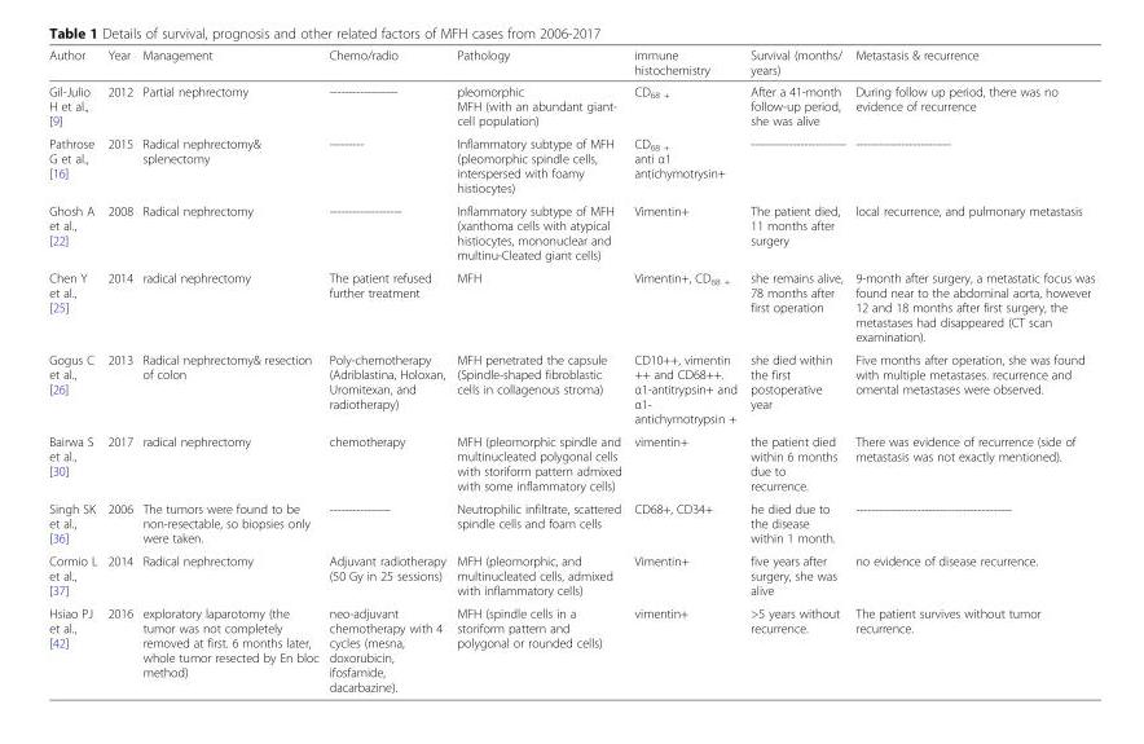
<table><thead><tr><td>Author</td><td>Year</td><td>Management</td><td>Chemo/radio</td><td>Pathology</td><td>immune histochemistry</td><td>Survival (months/ years)</td><td>Metastasis &amp; recurrence</td></tr></thead><tbody><tr><td>Gil-Julio H et al., [9]</td><td>2012</td><td>Partial nephrectomy</td><td>------------------</td><td>pleomorphic MFH (with an abundant giant- cell population)</td><td>CD<sub>68 +</sub></td><td>After a 41-month follow-up period, she was alive</td><td>During follow up period, there was no evidence of recurrence</td></tr><tr><td>Pathrose G et al., [16]</td><td>2015</td><td>Radical nephrectomy&amp; splenectomy</td><td>---------</td><td>Inflammatory subtype of MFH (pleomorphic spindle cells, interspersed with foamy histiocytes)</td><td>CD<sub>68 +</sub> anti α1 antichymotrysin+</td><td>-------------------------</td><td>-------------------------</td></tr><tr><td>Ghosh A et al., [22]</td><td>2008</td><td>Radical nephrectomy</td><td>-------------------</td><td>Inflammatory subtype of MFH (xanthoma cells with atypical histiocytes, mononuclear and multinu-Cleated giant cells)</td><td>Vimentin+</td><td>The patient died, 11 months after surgery</td><td>local recurrence, and pulmonary metastasis</td></tr><tr><td>Chen Y et al., [25]</td><td>2014</td><td>radical nephrectomy</td><td>The patient refused further treatment</td><td>MFH</td><td>Vimentin+, CD<sub>68 +</sub></td><td>she remains alive, 78 months after first operation</td><td>9-month after surgery, a metastatic focus was found near to the abdominal aorta, however 12 and 18 months after first surgery, the metastases had disappeared (CT scan examination).</td></tr><tr><td>Gogus C et al., [26]</td><td>2013</td><td>Radical nephrectomy&amp; resection of colon</td><td>Poly-chemotherapy (Adriblastina, Holoxan, Uromitexan, and radiotherapy)</td><td>MFH penetrated the capsule (Spindle-shaped fibroblastic cells in collagenous stroma)</td><td>CD10++, vimentin ++ and CD68++. α1-antitrypsin+ and α1- antichymotrypsin +</td><td>she died within the first postoperative year</td><td>Five months after operation, she was found with multiple metastases. recurrence and omental metastases were observed.</td></tr><tr><td>Bairwa S et al., [30]</td><td>2017</td><td>radical nephrectomy</td><td>chemotherapy</td><td>MFH (pleomorphic spindle and multinucleated polygonal cells with storiform pattern admixed with some inflammatory cells)</td><td>vimentin+</td><td>the patient died within 6 months due to recurrence.</td><td>There was evidence of recurrence (side of metastasis was not exactly mentioned).</td></tr><tr><td>Singh SK et al., [36]</td><td>2006</td><td>The tumors were found to be non-resectable, so biopsies only were taken.</td><td>----------------</td><td>Neutrophilic infiltrate, scattered spindle cells and foam cells</td><td>CD68+, CD34+</td><td>he died due to the disease within 1 month.</td><td>-----------------------------------------</td></tr><tr><td>Cormio L et al., [37]</td><td>2014</td><td>Radical nephrectomy</td><td>Adjuvant radiotherapy (50 Gy in 25 sessions)</td><td>MFH (pleomorphic, and multinucleated cells, admixed with inflammatory cells)</td><td>Vimentin+</td><td>five years after surgery, she was alive</td><td>no evidence of disease recurrence.</td></tr><tr><td>Hsiao PJ et al., [42]</td><td>2016</td><td>exploratory laparotomy (the tumor was not completely removed at first. 6 months later, whole tumor resected by En bloc method)</td><td>neo‑adjuvant chemotherapy with 4 cycles (mesna, doxorubicin, ifosfamide, dacarbazine).</td><td>MFH (spindle cells in a storiform pattern and polygonal or rounded cells)</td><td>vimentin+</td><td>&gt;5 years without recurrence.</td><td>The patient survives without tumor recurrence.</td></tr></tbody></table>